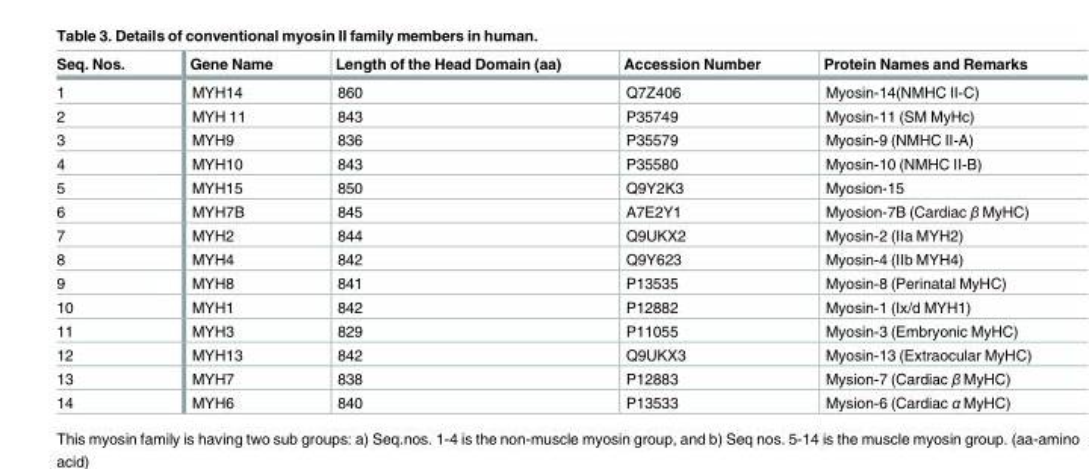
<table><thead><tr><td>Seq. Nos.</td><td>Gene Name</td><td>Length of the Head Domain (aa)</td><td>Accession Number</td><td>Protein Names and Remarks</td></tr></thead><tbody><tr><td>1</td><td>MYH14</td><td>860</td><td>Q7Z406</td><td>Myosin-14(NMHC II-C)</td></tr><tr><td>2</td><td>MYH 11</td><td>843</td><td>P35749</td><td>Myosin-11 (SM MyHc)</td></tr><tr><td>3</td><td>MYH9</td><td>836</td><td>P35579</td><td>Myosin-9 (NMHC II-A)</td></tr><tr><td>4</td><td>MYH10</td><td>843</td><td>P35580</td><td>Myosin-10 (NMHC II-B)</td></tr><tr><td>5</td><td>MYH15</td><td>850</td><td>Q9Y2K3</td><td>Myosion-15</td></tr><tr><td>6</td><td>MYH7B</td><td>845</td><td>A7E2Y1</td><td>Myosion-7B (Cardiac β MyHC)</td></tr><tr><td>7</td><td>MYH2</td><td>844</td><td>Q9UKX2</td><td>Myosin-2 (IIa MYH2)</td></tr><tr><td>8</td><td>MYH4</td><td>842</td><td>Q9Y623</td><td>Myosin-4 (IIb MYH4)</td></tr><tr><td>9</td><td>MYH8</td><td>841</td><td>P13535</td><td>Myosin-8 (Perinatal MyHC)</td></tr><tr><td>10</td><td>MYH1</td><td>842</td><td>P12882</td><td>Myosin-1 (Ix/d MYH1)</td></tr><tr><td>11</td><td>MYH3</td><td>829</td><td>P11055</td><td>Myosin-3 (Embryonic MyHC)</td></tr><tr><td>12</td><td>MYH13</td><td>842</td><td>Q9UKX3</td><td>Myosin-13 (Extraocular MyHC)</td></tr><tr><td>13</td><td>MYH7</td><td>838</td><td>P12883</td><td>Mysion-7 (Cardiac β MyHC)</td></tr><tr><td>14</td><td>MYH6</td><td>840</td><td>P13533</td><td>Mysion-6 (Cardiac α MyHC)</td></tr></tbody></table>